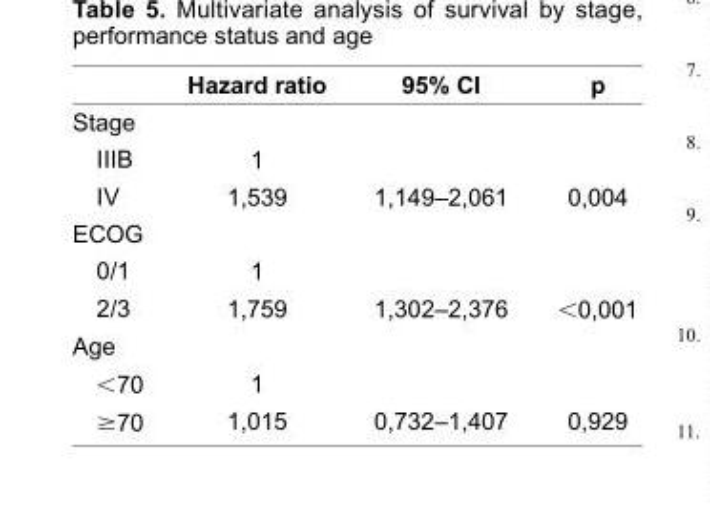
<table><thead><tr><td></td><td>Hazard ratio</td><td>95% CI</td><td>p</td></tr></thead><tbody><tr><td colspan="4">Stage</td></tr><tr><td>IIIB</td><td>1</td><td></td><td></td></tr><tr><td>IV</td><td>1,539</td><td>1,149–2,061</td><td>0,004</td></tr><tr><td colspan="4">ECOG</td></tr><tr><td>0/1</td><td>1</td><td></td><td></td></tr><tr><td>2/3</td><td>1,759</td><td>1,302–2,376</td><td>&lt;0,001</td></tr><tr><td colspan="4">Age</td></tr><tr><td>&lt;70</td><td>1</td><td></td><td></td></tr><tr><td>≥70</td><td>1,015</td><td>0,732–1,407</td><td>0,929</td></tr></tbody></table>